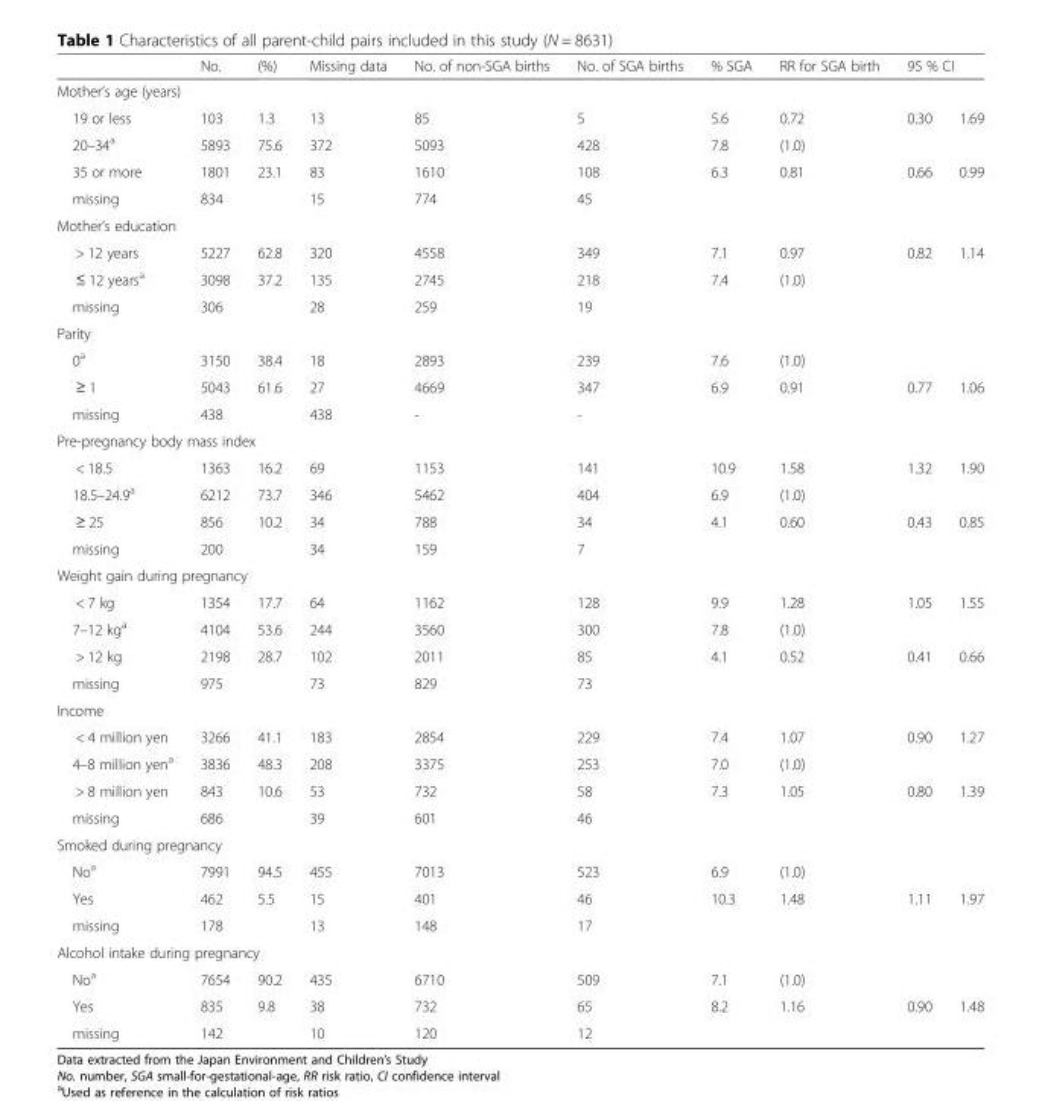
<table><thead><tr><td></td><td>No.</td><td>(%)</td><td>Missing data</td><td>No. of non-SGA births</td><td>No. of SGA births</td><td>% SGA</td><td>RR for SGA birth</td><td colspan="2">95 % CI</td></tr><tr><td colspan="10">Mother’s age (years)</td></tr><tr><td>19 or less</td><td>103</td><td>1.3</td><td>13</td><td>85</td><td>5</td><td>5.6</td><td>0.72</td><td>0.30</td><td>1.69</td></tr></thead><tbody><tr><td>20–34<sup>a</sup></td><td>5893</td><td>75.6</td><td>372</td><td>5093</td><td>428</td><td>7.8</td><td>(1.0)</td><td></td><td></td></tr><tr><td>35 or more</td><td>1801</td><td>23.1</td><td>83</td><td>1610</td><td>108</td><td>6.3</td><td>0.81</td><td>0.66</td><td>0.99</td></tr><tr><td>missing</td><td>834</td><td></td><td>15</td><td>774</td><td>45</td><td></td><td></td><td></td><td></td></tr><tr><td colspan="10">Mother’s education</td></tr><tr><td>&gt; 12 years</td><td>5227</td><td>62.8</td><td>320</td><td>4558</td><td>349</td><td>7.1</td><td>0.97</td><td>0.82</td><td>1.14</td></tr><tr><td>≤ 12 years<sup>a</sup></td><td>3098</td><td>37.2</td><td>135</td><td>2745</td><td>218</td><td>7.4</td><td>(1.0)</td><td></td><td></td></tr><tr><td>missing</td><td>306</td><td></td><td>28</td><td>259</td><td>19</td><td></td><td></td><td></td><td></td></tr><tr><td colspan="10">Parity</td></tr><tr><td>0<sup>a</sup></td><td>3150</td><td>38.4</td><td>18</td><td>2893</td><td>239</td><td>7.6</td><td>(1.0)</td><td></td><td></td></tr><tr><td>≥ 1</td><td>5043</td><td>61.6</td><td>27</td><td>4669</td><td>347</td><td>6.9</td><td>0.91</td><td>0.77</td><td>1.06</td></tr><tr><td>missing</td><td>438</td><td></td><td>438</td><td>-</td><td>-</td><td></td><td></td><td></td><td></td></tr><tr><td colspan="10">Pre-pregnancy body mass index</td></tr><tr><td>&lt; 18.5</td><td>1363</td><td>16.2</td><td>69</td><td>1153</td><td>141</td><td>10.9</td><td>1.58</td><td>1.32</td><td>1.90</td></tr><tr><td>18.5–24.9<sup>a</sup></td><td>6212</td><td>73.7</td><td>346</td><td>5462</td><td>404</td><td>6.9</td><td>(1.0)</td><td></td><td></td></tr><tr><td>≥ 25</td><td>856</td><td>10.2</td><td>34</td><td>788</td><td>34</td><td>4.1</td><td>0.60</td><td>0.43</td><td>0.85</td></tr><tr><td>missing</td><td>200</td><td></td><td>34</td><td>159</td><td>7</td><td></td><td></td><td></td><td></td></tr><tr><td colspan="10">Weight gain during pregnancy</td></tr><tr><td>&lt; 7 kg</td><td>1354</td><td>17.7</td><td>64</td><td>1162</td><td>128</td><td>9.9</td><td>1.28</td><td>1.05</td><td>1.55</td></tr><tr><td>7–12 kg<sup>a</sup></td><td>4104</td><td>53.6</td><td>244</td><td>3560</td><td>300</td><td>7.8</td><td>(1.0)</td><td></td><td></td></tr><tr><td>&gt; 12 kg</td><td>2198</td><td>28.7</td><td>102</td><td>2011</td><td>85</td><td>4.1</td><td>0.52</td><td>0.41</td><td>0.66</td></tr><tr><td>missing</td><td>975</td><td></td><td>73</td><td>829</td><td>73</td><td></td><td></td><td></td><td></td></tr><tr><td colspan="10">Income</td></tr><tr><td>&lt; 4 million yen</td><td>3266</td><td>41.1</td><td>183</td><td>2854</td><td>229</td><td>7.4</td><td>1.07</td><td>0.90</td><td>1.27</td></tr><tr><td>4–8 million yen<sup>a</sup></td><td>3836</td><td>48.3</td><td>208</td><td>3375</td><td>253</td><td>7.0</td><td>(1.0)</td><td></td><td></td></tr><tr><td>&gt; 8 million yen</td><td>843</td><td>10.6</td><td>53</td><td>732</td><td>58</td><td>7.3</td><td>1.05</td><td>0.80</td><td>1.39</td></tr><tr><td>missing</td><td>686</td><td></td><td>39</td><td>601</td><td>46</td><td></td><td></td><td></td><td></td></tr><tr><td colspan="10">Smoked during pregnancy</td></tr><tr><td>No<sup>a</sup></td><td>7991</td><td>94.5</td><td>455</td><td>7013</td><td>523</td><td>6.9</td><td>(1.0)</td><td></td><td></td></tr><tr><td>Yes</td><td>462</td><td>5.5</td><td>15</td><td>401</td><td>46</td><td>10.3</td><td>1.48</td><td>1.11</td><td>1.97</td></tr><tr><td>missing</td><td>178</td><td></td><td>13</td><td>148</td><td>17</td><td></td><td></td><td></td><td></td></tr><tr><td colspan="10">Alcohol intake during pregnancy</td></tr><tr><td>No<sup>a</sup></td><td>7654</td><td>90.2</td><td>435</td><td>6710</td><td>509</td><td>7.1</td><td>(1.0)</td><td></td><td></td></tr><tr><td>Yes</td><td>835</td><td>9.8</td><td>38</td><td>732</td><td>65</td><td>8.2</td><td>1.16</td><td>0.90</td><td>1.48</td></tr><tr><td>missing</td><td>142</td><td></td><td>10</td><td>120</td><td>12</td><td></td><td></td><td></td><td></td></tr></tbody></table>